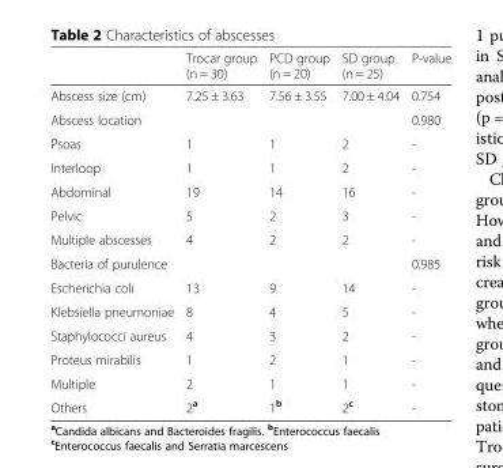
<table><thead><tr><td></td><td>Trocar group (n = 30)</td><td>PCD group (n = 20)</td><td>SD group (n = 25)</td><td>P-value</td></tr></thead><tbody><tr><td>Abscess size (cm)</td><td>7.25 ± 3.63</td><td>7.56 ± 3.55</td><td>7.00 ± 4.04</td><td>0.754</td></tr><tr><td>Abscess location</td><td></td><td></td><td></td><td>0.980</td></tr><tr><td>Psoas</td><td>1</td><td>1</td><td>2</td><td>-</td></tr><tr><td>Interloop</td><td>1</td><td>1</td><td>2</td><td>-</td></tr><tr><td>Abdominal</td><td>19</td><td>14</td><td>16</td><td>-</td></tr><tr><td>Pelvic</td><td>5</td><td>2</td><td>3</td><td>-</td></tr><tr><td>Multiple abscesses</td><td>4</td><td>2</td><td>2</td><td>-</td></tr><tr><td>Bacteria of purulence</td><td></td><td></td><td></td><td>0.985</td></tr><tr><td>Escherichia coli</td><td>13</td><td>9</td><td>14</td><td>-</td></tr><tr><td>Klebsiella pneumoniae</td><td>8</td><td>4</td><td>5</td><td>-</td></tr><tr><td>Staphylococci aureus</td><td>4</td><td>3</td><td>2</td><td>-</td></tr><tr><td>Proteus mirabilis</td><td>1</td><td>2</td><td>1</td><td>-</td></tr><tr><td>Multiple</td><td>2</td><td>1</td><td>1</td><td>-</td></tr><tr><td>Others</td><td>2<sup>a</sup></td><td>1<sup>b</sup></td><td>2<sup>c</sup></td><td>-</td></tr></tbody></table>